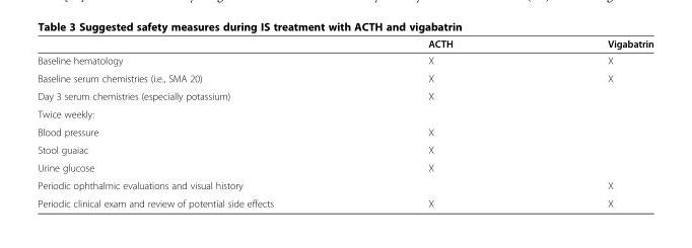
<table><thead><tr><td></td><td>ACTH</td><td>Vigabatrin</td></tr></thead><tbody><tr><td>Baseline hematology</td><td>X</td><td>X</td></tr><tr><td>Baseline serum chemistries (i.e., SMA 20)</td><td>X</td><td>X</td></tr><tr><td>Day 3 serum chemistries (especially potassium)</td><td>X</td><td></td></tr><tr><td colspan="3">Twice weekly:</td></tr><tr><td>Blood pressure</td><td>X</td><td></td></tr><tr><td>Stool guaiac</td><td>X</td><td></td></tr><tr><td>Urine glucose</td><td>X</td><td></td></tr><tr><td>Periodic ophthalmic evaluations and visual history</td><td></td><td>X</td></tr><tr><td>Periodic clinical exam and review of potential side effects</td><td>X</td><td>X</td></tr></tbody></table>